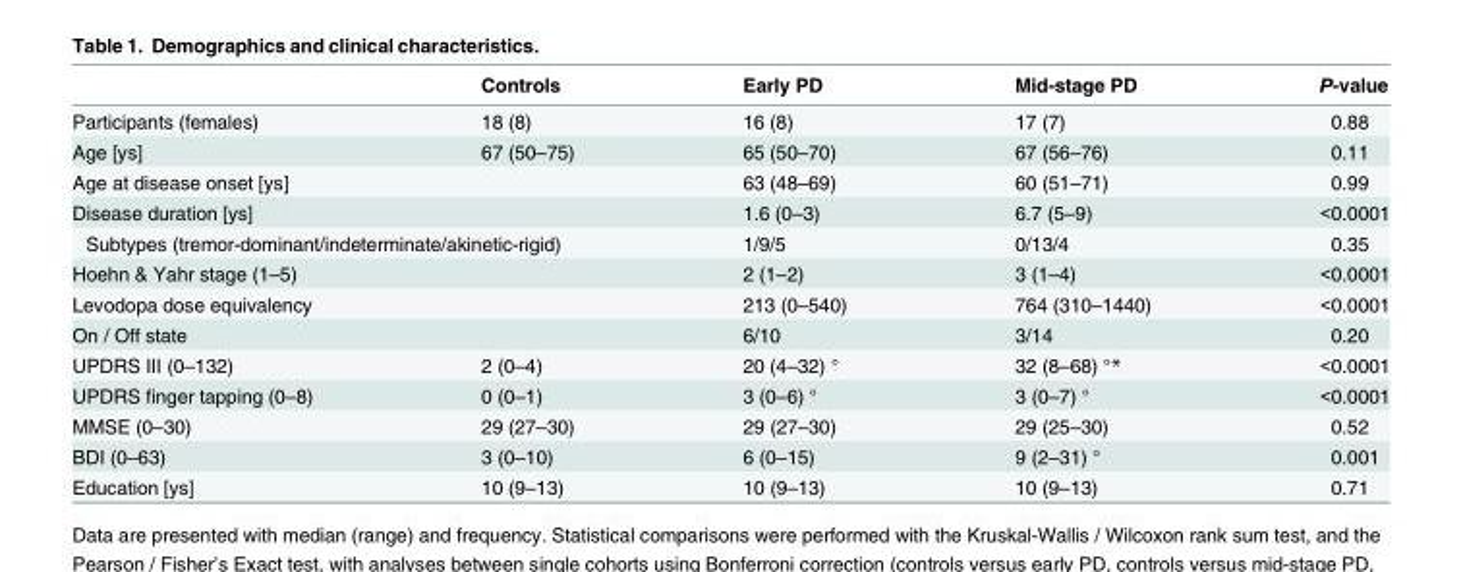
<table><thead><tr><td></td><td>Controls</td><td>Early PD</td><td>Mid-stage PD</td><td>P-value</td></tr></thead><tbody><tr><td>Participants (females)</td><td>18 (8)</td><td>16 (8)</td><td>17 (7)</td><td>0.88</td></tr><tr><td>Age [ys]</td><td>67 (50–75)</td><td>65 (50–70)</td><td>67 (56–76)</td><td>0.11</td></tr><tr><td>Age at disease onset [ys]</td><td></td><td>63 (48–69)</td><td>60 (51–71)</td><td>0.99</td></tr><tr><td>Disease duration [ys]</td><td></td><td>1.6 (0–3)</td><td>6.7 (5–9)</td><td>&lt;0.0001</td></tr><tr><td colspan="2">Subtypes (tremor-dominant/indeterminate/akinetic-rigid)</td><td>1/9/5</td><td>0/13/4</td><td>0.35</td></tr><tr><td>Hoehn &amp; Yahr stage (1–5)</td><td></td><td>2 (1–2)</td><td>3 (1–4)</td><td>&lt;0.0001</td></tr><tr><td>Levodopa dose equivalency</td><td></td><td>213 (0–540)</td><td>764 (310–1440)</td><td>&lt;0.0001</td></tr><tr><td>On / Off state</td><td></td><td>6/10</td><td>3/14</td><td>0.20</td></tr><tr><td>UPDRS III (0–132)</td><td>2 (0–4)</td><td>20 (4–32) °</td><td>32 (8–68) °*</td><td>&lt;0.0001</td></tr><tr><td>UPDRS finger tapping (0–8)</td><td>0 (0–1)</td><td>3 (0–6) °</td><td>3 (0–7) °</td><td>&lt;0.0001</td></tr><tr><td>MMSE (0–30)</td><td>29 (27–30)</td><td>29 (27–30)</td><td>29 (25–30)</td><td>0.52</td></tr><tr><td>BDI (0–63)</td><td>3 (0–10)</td><td>6 (0–15)</td><td>9 (2–31) °</td><td>0.001</td></tr><tr><td>Education [ys]</td><td>10 (9–13)</td><td>10 (9–13)</td><td>10 (9–13)</td><td>0.71</td></tr></tbody></table>